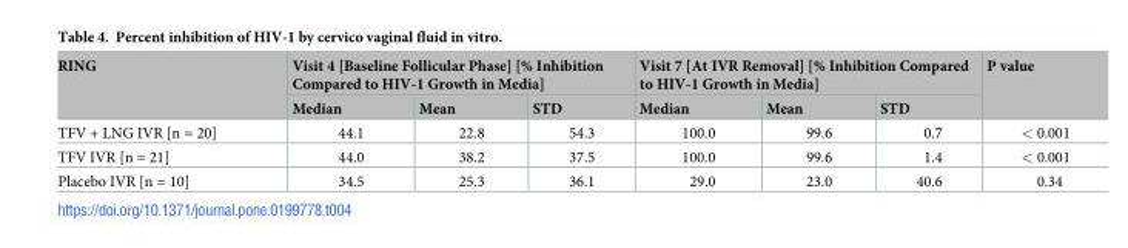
<table><thead><tr><td rowspan="2">RING</td><td colspan="3">Visit 4 [Baseline Follicular Phase] [% Inhibition Compared to HIV-1 Growth in Media]</td><td colspan="3">Visit 7 [At IVR Removal] [% Inhibition Compared to HIV-1 Growth in Media]</td><td rowspan="2">P value</td></tr><tr><td>Median</td><td>Mean</td><td>STD</td><td>Median</td><td>Mean</td><td>STD</td></tr></thead><tbody><tr><td>TFV + LNG IVR [n = 20]</td><td>44.1</td><td>22.8</td><td>54.3</td><td>100.0</td><td>99.6</td><td>0.7</td><td>&lt; 0.001</td></tr><tr><td>TFV IVR [n = 21]</td><td>44.0</td><td>38.2</td><td>37.5</td><td>100.0</td><td>99.6</td><td>1.4</td><td>&lt; 0.001</td></tr><tr><td>Placebo IVR [n = 10]</td><td>34.5</td><td>25.3</td><td>36.1</td><td>29.0</td><td>23.0</td><td>40.6</td><td>0.34</td></tr></tbody></table>